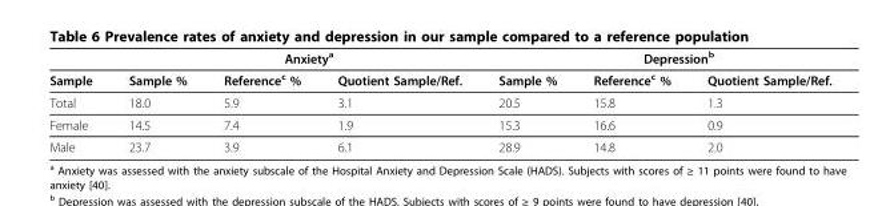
<table><thead><tr><td rowspan="2">Sample</td><td colspan="3">Anxiety<sup>a</sup></td><td colspan="3">Depression<sup>b</sup></td></tr><tr><td>Sample %</td><td>Reference<sup>c</sup> %</td><td>Quotient Sample/Ref.</td><td>Sample %</td><td>Reference<sup>c</sup> %</td><td>Quotient Sample/Ref.</td></tr></thead><tbody><tr><td>Total</td><td>18.0</td><td>5.9</td><td>3.1</td><td>20.5</td><td>15.8</td><td>1.3</td></tr><tr><td>Female</td><td>14.5</td><td>7.4</td><td>1.9</td><td>15.3</td><td>16.6</td><td>0.9</td></tr><tr><td>Male</td><td>23.7</td><td>3.9</td><td>6.1</td><td>28.9</td><td>14.8</td><td>2.0</td></tr></tbody></table>